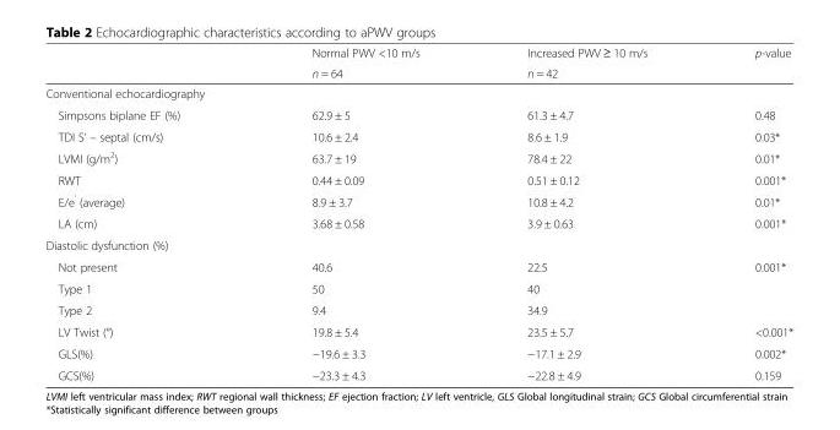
<table><thead><tr><td rowspan="2"></td><td rowspan="2">Normal PWV &lt;10 m/s n = 64</td><td rowspan="2">Increased PWV ≥ 10 m/s n = 42</td><td rowspan="2">p-value</td></tr><tr></tr></thead><tbody><tr><td colspan="4">Conventional echocardiography</td></tr><tr><td>Simpsons biplane EF (%)</td><td>62.9 ± 5</td><td>61.3 ± 4.7</td><td>0.48</td></tr><tr><td>TDI S’ – septal (cm/s)</td><td>10.6 ± 2.4</td><td>8.6 ± 1.9</td><td>0.03*</td></tr><tr><td>LVMI (g/m<sup>2</sup>)</td><td>63.7 ± 19</td><td>78.4 ± 22</td><td>0.01*</td></tr><tr><td>RWT</td><td>0.44 ± 0.09</td><td>0.51 ± 0.12</td><td>0.001*</td></tr><tr><td>E/e<sup>’</sup> (average)</td><td>8.9 ± 3.7</td><td>10.8 ± 4.2</td><td>0.01*</td></tr><tr><td>LA (cm)</td><td>3.68 ± 0.58</td><td>3.9 ± 0.63</td><td>0.001*</td></tr><tr><td colspan="4">Diastolic dysfunction (%)</td></tr><tr><td>Not present</td><td>40.6</td><td>22.5</td><td>0.001*</td></tr><tr><td>Type 1</td><td>50</td><td>40</td><td></td></tr><tr><td>Type 2</td><td>9.4</td><td>34.9</td><td></td></tr><tr><td>LV Twist (°)</td><td>19.8 ± 5.4</td><td>23.5 ± 5.7</td><td>&lt;0.001*</td></tr><tr><td>GLS(%)</td><td>−19.6 ± 3.3</td><td>−17.1 ± 2.9</td><td>0.002*</td></tr><tr><td>GCS(%)</td><td>−23.3 ± 4.3</td><td>−22.8 ± 4.9</td><td>0.159</td></tr></tbody></table>